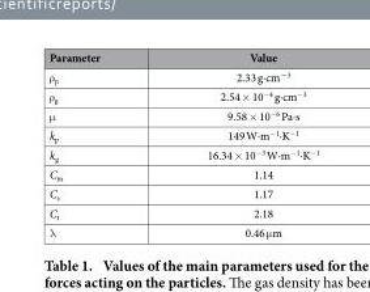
<table><thead><tr><td>Parameter</td><td>Value</td></tr></thead><tbody><tr><td>ρ <sub>p</sub></td><td>2.33 g·cm<sup>−3</sup></td></tr><tr><td>ρ <sub>g</sub></td><td>2.54 × 10<sup>−4</sup> g·cm<sup>−3</sup></td></tr><tr><td>μ</td><td>9.58 × 10<sup>−6</sup> Pa·s</td></tr><tr><td>k<sub>p</sub></td><td>149 W·m<sup>−1</sup>·K<sup>−1</sup></td></tr><tr><td>k<sub>g</sub></td><td>16.34 × 10<sup>−3</sup> W·m<sup>−1</sup>·K<sup>−1</sup></td></tr><tr><td>C<sub>m</sub></td><td>1.14</td></tr><tr><td>C<sub>s</sub></td><td>1.17</td></tr><tr><td>C<sub>t</sub></td><td>2.18</td></tr><tr><td>λ</td><td>0.46 μ m</td></tr></tbody></table>